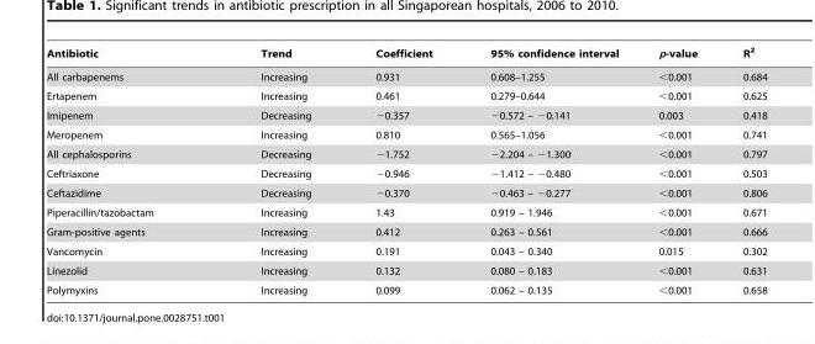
<table><thead><tr><td>Antibiotic</td><td>Trend</td><td>Coefficient</td><td>95% confidence interval</td><td>p-value</td><td>R<sup>2</sup></td></tr></thead><tbody><tr><td>All carbapenems</td><td>Increasing</td><td>0.931</td><td>0.608–1.255</td><td>&lt;0.001</td><td>0.684</td></tr><tr><td>Ertapenem</td><td>Increasing</td><td>0.461</td><td>0.279–0.644</td><td>&lt;0.001</td><td>0.625</td></tr><tr><td>Imipenem</td><td>Decreasing</td><td>−0.357</td><td>−0.572 – −0.141</td><td>0.003</td><td>0.418</td></tr><tr><td>Meropenem</td><td>Increasing</td><td>0.810</td><td>0.565–1.056</td><td>&lt;0.001</td><td>0.741</td></tr><tr><td>All cephalosporins</td><td>Decreasing</td><td>−1.752</td><td>−2.204 – −1.300</td><td>&lt;0.001</td><td>0.797</td></tr><tr><td>Ceftriaxone</td><td>Decreasing</td><td>−0.946</td><td>−1.412 – −0.480</td><td>&lt;0.001</td><td>0.503</td></tr><tr><td>Ceftazidime</td><td>Decreasing</td><td>−0.370</td><td>−0.463 – −0.277</td><td>&lt;0.001</td><td>0.806</td></tr><tr><td>Piperacillin/tazobactam</td><td>Increasing</td><td>1.43</td><td>0.919 – 1.946</td><td>&lt;0.001</td><td>0.671</td></tr><tr><td>Gram-positive agents</td><td>Increasing</td><td>0.412</td><td>0.263 – 0.561</td><td>&lt;0.001</td><td>0.666</td></tr><tr><td>Vancomycin</td><td>Increasing</td><td>0.191</td><td>0.043 – 0.340</td><td>0.015</td><td>0.302</td></tr><tr><td>Linezolid</td><td>Increasing</td><td>0.132</td><td>0.080 – 0.183</td><td>&lt;0.001</td><td>0.631</td></tr><tr><td>Polymyxins</td><td>Increasing</td><td>0.099</td><td>0.062 – 0.135</td><td>&lt;0.001</td><td>0.658</td></tr></tbody></table>